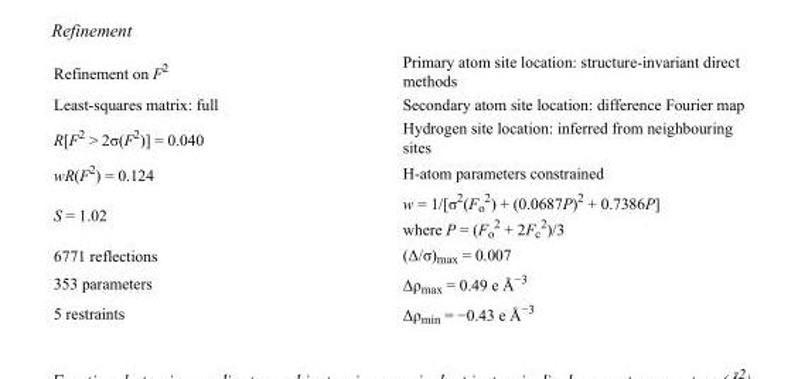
<table><tbody><tr><td>Refinement on F<sup>2</sup></td><td>Primary atom site location: structure-invariant direct methods</td></tr><tr><td>Least-squares matrix: full</td><td>Secondary atom site location: difference Fourier map</td></tr><tr><td>R[F<sup>2</sup> &gt; 2σ(F<sup>2</sup>)] = 0.040</td><td>Hydrogen site location: inferred from neighbouring sites</td></tr><tr><td>wR(F<sup>2</sup>) = 0.124</td><td>H-atom parameters constrained</td></tr><tr><td>S = 1.02</td><td>w = 1/[σ<sup>2</sup>(F<sub>o</sub> <sup>2</sup>) + (0.0687P)<sup>2</sup> + 0.7386P] where P = (F<sub>o</sub> <sup>2</sup> + 2F<sub>c</sub> <sup>2</sup>)/3</td></tr><tr><td>6771 reflections</td><td>(Δ/σ)<sub>max</sub> = 0.007</td></tr><tr><td>353 parameters</td><td>Δρ<sub>max</sub> = 0.49 e Å<sup>−3</sup></td></tr><tr><td>5 restraints</td><td>Δρmin = −0.43 e Å−3</td></tr></tbody></table>